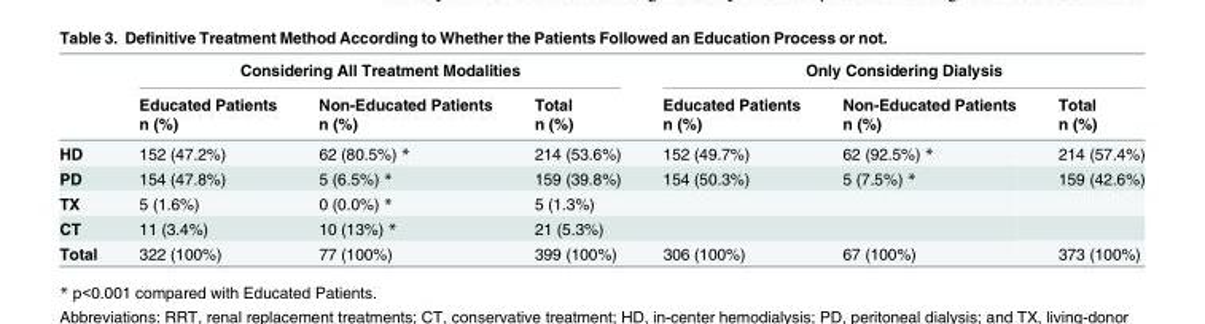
<table><thead><tr><td rowspan="3"></td><td colspan="3">Considering All Treatment Modalities</td><td colspan="3">Only Considering Dialysis</td></tr><tr><td rowspan="2">Educated Patients n (%)</td><td rowspan="2">Non-Educated Patients n (%)</td><td rowspan="2">Total n (%)</td><td rowspan="2">Educated Patients n (%)</td><td rowspan="2">Non-Educated Patients n (%)</td><td rowspan="2">Total n (%)</td></tr><tr></tr></thead><tbody><tr><td>HD</td><td>152 (47.2%)</td><td>62 (80.5%) *</td><td>214 (53.6%)</td><td>152 (49.7%)</td><td>62 (92.5%) *</td><td>214 (57.4%)</td></tr><tr><td>PD</td><td>154 (47.8%)</td><td>5 (6.5%) *</td><td>159 (39.8%)</td><td>154 (50.3%)</td><td>5 (7.5%) *</td><td>159 (42.6%)</td></tr><tr><td>TX</td><td>5 (1.6%)</td><td>0 (0.0%) *</td><td>5 (1.3%)</td><td></td><td></td><td></td></tr><tr><td>CT</td><td>11 (3.4%)</td><td>10 (13%) *</td><td>21 (5.3%)</td><td></td><td></td><td></td></tr><tr><td>Total</td><td>322 (100%)</td><td>77 (100%)</td><td>399 (100%)</td><td>306 (100%)</td><td>67 (100%)</td><td>373 (100%)</td></tr></tbody></table>